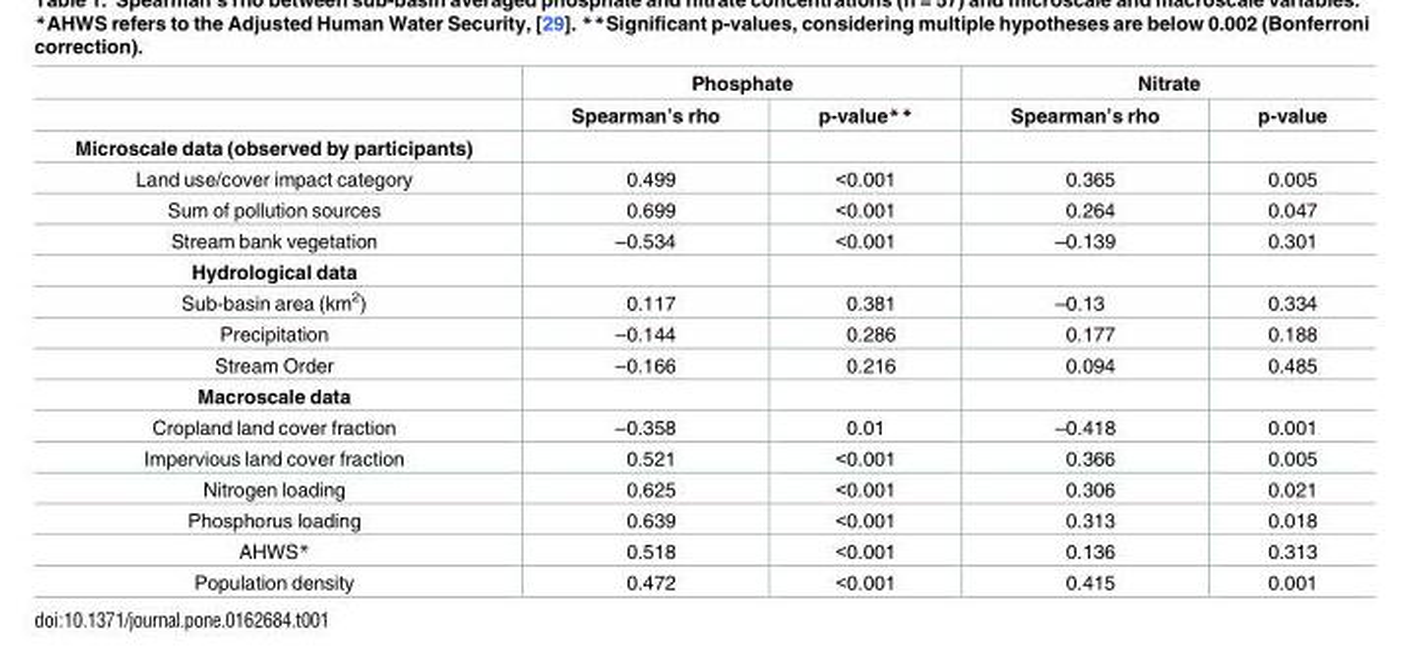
<table><thead><tr><td rowspan="2"></td><td colspan="2">Phosphate</td><td colspan="2">Nitrate</td></tr><tr><td>Spearman’s rho</td><td>p-value**</td><td>Spearman’s rho</td><td>p-value</td></tr></thead><tbody><tr><td colspan="5">Microscale data (observed by participants)</td></tr><tr><td>Land use/cover impact category</td><td>0.499</td><td>&lt;0.001</td><td>0.365</td><td>0.005</td></tr><tr><td>Sum of pollution sources</td><td>0.699</td><td>&lt;0.001</td><td>0.264</td><td>0.047</td></tr><tr><td>Stream bank vegetation</td><td>–0.534</td><td>&lt;0.001</td><td>–0.139</td><td>0.301</td></tr><tr><td colspan="5">Hydrological data</td></tr><tr><td>Sub-basin area (km<sup>2</sup>)</td><td>0.117</td><td>0.381</td><td>–0.13</td><td>0.334</td></tr><tr><td>Precipitation</td><td>–0.144</td><td>0.286</td><td>0.177</td><td>0.188</td></tr><tr><td>Stream Order</td><td>–0.166</td><td>0.216</td><td>0.094</td><td>0.485</td></tr><tr><td colspan="5">Macroscale data</td></tr><tr><td>Cropland land cover fraction</td><td>–0.358</td><td>0.01</td><td>–0.418</td><td>0.001</td></tr><tr><td>Impervious land cover fraction</td><td>0.521</td><td>&lt;0.001</td><td>0.366</td><td>0.005</td></tr><tr><td>Nitrogen loading</td><td>0.625</td><td>&lt;0.001</td><td>0.306</td><td>0.021</td></tr><tr><td>Phosphorus loading</td><td>0.639</td><td>&lt;0.001</td><td>0.313</td><td>0.018</td></tr><tr><td>AHWS*</td><td>0.518</td><td>&lt;0.001</td><td>0.136</td><td>0.313</td></tr><tr><td>Population density</td><td>0.472</td><td>&lt;0.001</td><td>0.415</td><td>0.001</td></tr></tbody></table>